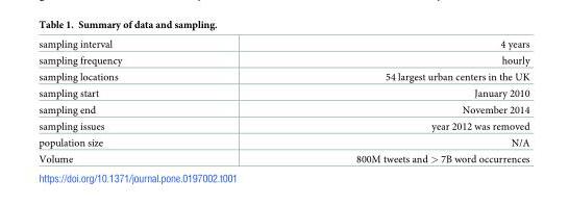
<table><tbody><tr><td>sampling interval</td><td>4 years</td></tr><tr><td>sampling frequency</td><td>hourly</td></tr><tr><td>sampling locations</td><td>54 largest urban centers in the UK</td></tr><tr><td>sampling start</td><td>January 2010</td></tr><tr><td>sampling end</td><td>November 2014</td></tr><tr><td>sampling issues</td><td>year 2012 was removed</td></tr><tr><td>population size</td><td>N/A</td></tr><tr><td>Volume</td><td>800M tweets and &gt; 7B word occurrences</td></tr></tbody></table>